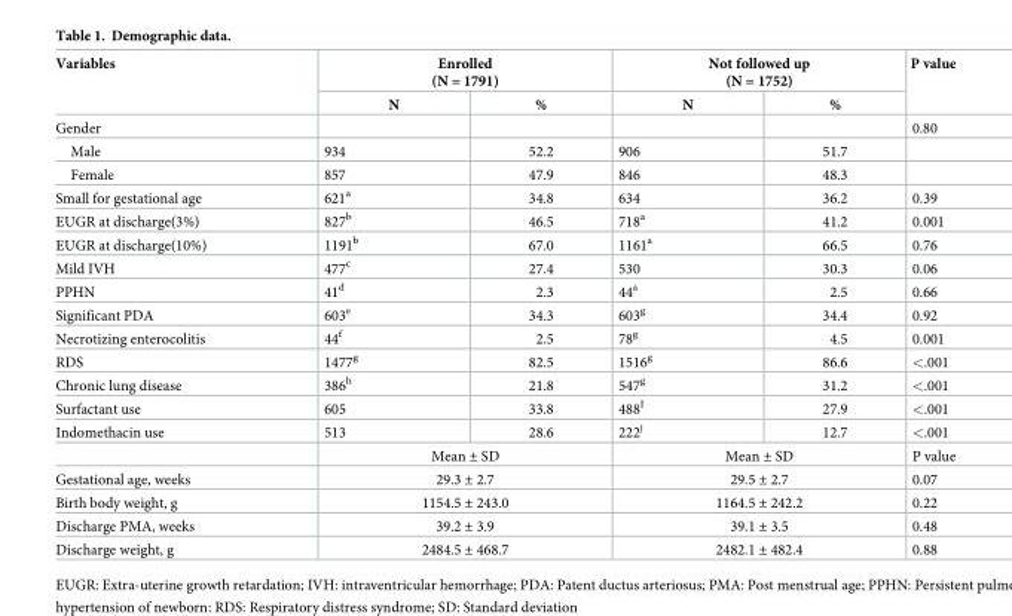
<table><thead><tr><td rowspan="2">Variables</td><td colspan="2">Enrolled (N = 1791)</td><td colspan="2">Not followed up (N = 1752)</td><td rowspan="2">P value</td></tr><tr><td>N</td><td>%</td><td>N</td><td>%</td></tr></thead><tbody><tr><td>Gender</td><td></td><td></td><td></td><td></td><td>0.80</td></tr><tr><td>Male</td><td>934</td><td>52.2</td><td>906</td><td>51.7</td><td></td></tr><tr><td>Female</td><td>857</td><td>47.9</td><td>846</td><td>48.3</td><td></td></tr><tr><td>Small for gestational age</td><td>621<sup>a</sup></td><td>34.8</td><td>634</td><td>36.2</td><td>0.39</td></tr><tr><td>EUGR at discharge(3%)</td><td>827<sup>b</sup></td><td>46.5</td><td>718<sup>a</sup></td><td>41.2</td><td>0.001</td></tr><tr><td>EUGR at discharge(10%)</td><td>1191<sup>b</sup></td><td>67.0</td><td>1161<sup>a</sup></td><td>66.5</td><td>0.76</td></tr><tr><td>Mild IVH</td><td>477<sup>c</sup></td><td>27.4</td><td>530</td><td>30.3</td><td>0.06</td></tr><tr><td>PPHN</td><td>41<sup>d</sup></td><td>2.3</td><td>44<sup>a</sup></td><td>2.5</td><td>0.66</td></tr><tr><td>Significant PDA</td><td>603<sup>e</sup></td><td>34.3</td><td>603<sup>g</sup></td><td>34.4</td><td>0.92</td></tr><tr><td>Necrotizing enterocolitis</td><td>44<sup>f</sup></td><td>2.5</td><td>78<sup>g</sup></td><td>4.5</td><td>0.001</td></tr><tr><td>RDS</td><td>1477<sup>g</sup></td><td>82.5</td><td>1516<sup>g</sup></td><td>86.6</td><td>&lt;.001</td></tr><tr><td>Chronic lung disease</td><td>386<sup>h</sup></td><td>21.8</td><td>547<sup>g</sup></td><td>31.2</td><td>&lt;.001</td></tr><tr><td>Surfactant use</td><td>605</td><td>33.8</td><td>488<sup>I</sup></td><td>27.9</td><td>&lt;.001</td></tr><tr><td rowspan="2">Indomethacin use</td><td>513</td><td>28.6</td><td>222<sup>j</sup></td><td>12.7</td><td>&lt;.001</td></tr><tr><td colspan="2">Mean ± SD</td><td colspan="2">Mean ± SD</td><td>P value</td></tr><tr><td>Gestational age, weeks</td><td colspan="2">29.3 ± 2.7</td><td colspan="2">29.5 ± 2.7</td><td>0.07</td></tr><tr><td>Birth body weight, g</td><td colspan="2">1154.5 ± 243.0</td><td colspan="2">1164.5 ± 242.2</td><td>0.22</td></tr><tr><td>Discharge PMA, weeks</td><td colspan="2">39.2 ± 3.9</td><td colspan="2">39.1 ± 3.5</td><td>0.48</td></tr><tr><td>Discharge weight, g</td><td colspan="2">2484.5 ± 468.7</td><td colspan="2">2482.1 ± 482.4</td><td>0.88</td></tr></tbody></table>